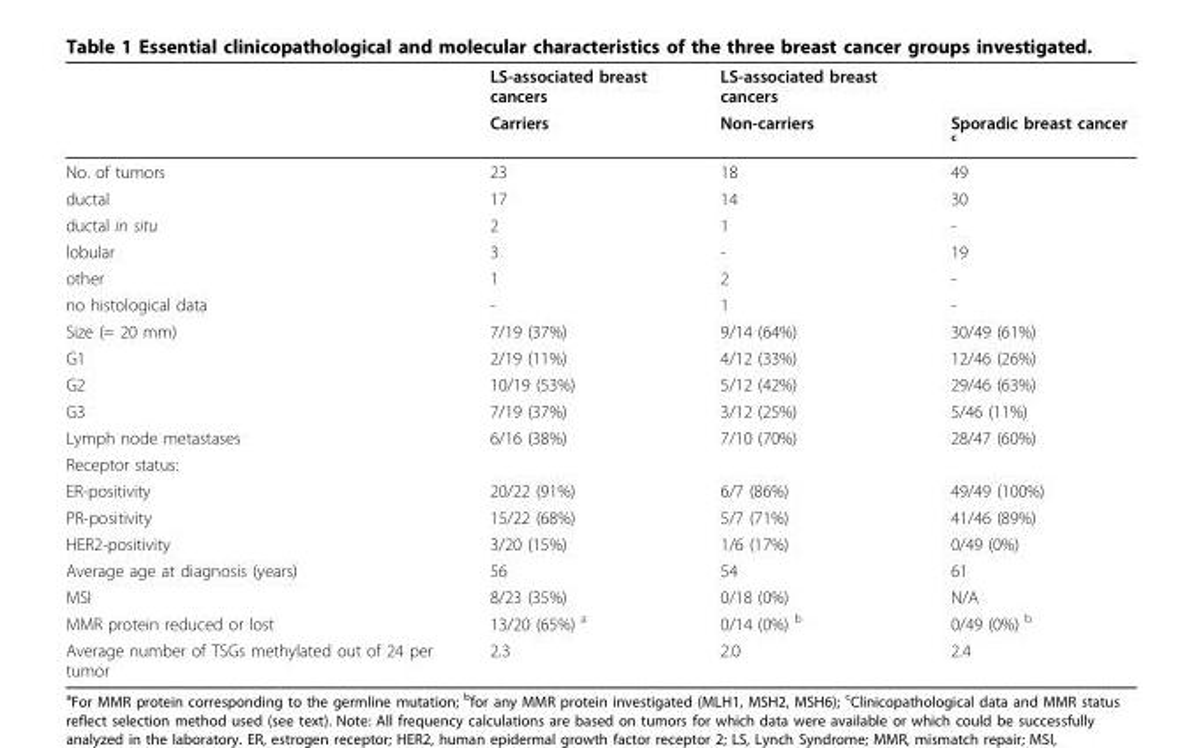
<table><thead><tr><td rowspan="2"></td><td rowspan="2">LS-associated breast cancers Carriers</td><td rowspan="2">LS-associated breast cancers Non-carriers</td><td rowspan="2">Sporadic breast cancer <sup>c</sup></td></tr><tr></tr></thead><tbody><tr><td>No. of tumors</td><td>23</td><td>18</td><td>49</td></tr><tr><td>ductal</td><td>17</td><td>14</td><td>30</td></tr><tr><td>ductal in situ</td><td>2</td><td>1</td><td>-</td></tr><tr><td>lobular</td><td>3</td><td>-</td><td>19</td></tr><tr><td>other</td><td>1</td><td>2</td><td>-</td></tr><tr><td>no histological data</td><td>-</td><td>1</td><td>-</td></tr><tr><td>Size (= 20 mm)</td><td>7/19 (37%)</td><td>9/14 (64%)</td><td>30/49 (61%)</td></tr><tr><td>G1</td><td>2/19 (11%)</td><td>4/12 (33%)</td><td>12/46 (26%)</td></tr><tr><td>G2</td><td>10/19 (53%)</td><td>5/12 (42%)</td><td>29/46 (63%)</td></tr><tr><td>G3</td><td>7/19 (37%)</td><td>3/12 (25%)</td><td>5/46 (11%)</td></tr><tr><td>Lymph node metastases</td><td>6/16 (38%)</td><td>7/10 (70%)</td><td>28/47 (60%)</td></tr><tr><td colspan="4">Receptor status:</td></tr><tr><td>ER-positivity</td><td>20/22 (91%)</td><td>6/7 (86%)</td><td>49/49 (100%)</td></tr><tr><td>PR-positivity</td><td>15/22 (68%)</td><td>5/7 (71%)</td><td>41/46 (89%)</td></tr><tr><td>HER2-positivity</td><td>3/20 (15%)</td><td>1/6 (17%)</td><td>0/49 (0%)</td></tr><tr><td>Average age at diagnosis (years)</td><td>56</td><td>54</td><td>61</td></tr><tr><td>MSI</td><td>8/23 (35%)</td><td>0/18 (0%)</td><td>N/A</td></tr><tr><td>MMR protein reduced or lost</td><td>13/20 (65%) <sup>a</sup></td><td>0/14 (0%) <sup>b</sup></td><td>0/49 (0%) <sup>b</sup></td></tr><tr><td>Average number of TSGs methylated out of 24 per tumor</td><td>2.3</td><td>2.0</td><td>2.4</td></tr></tbody></table>